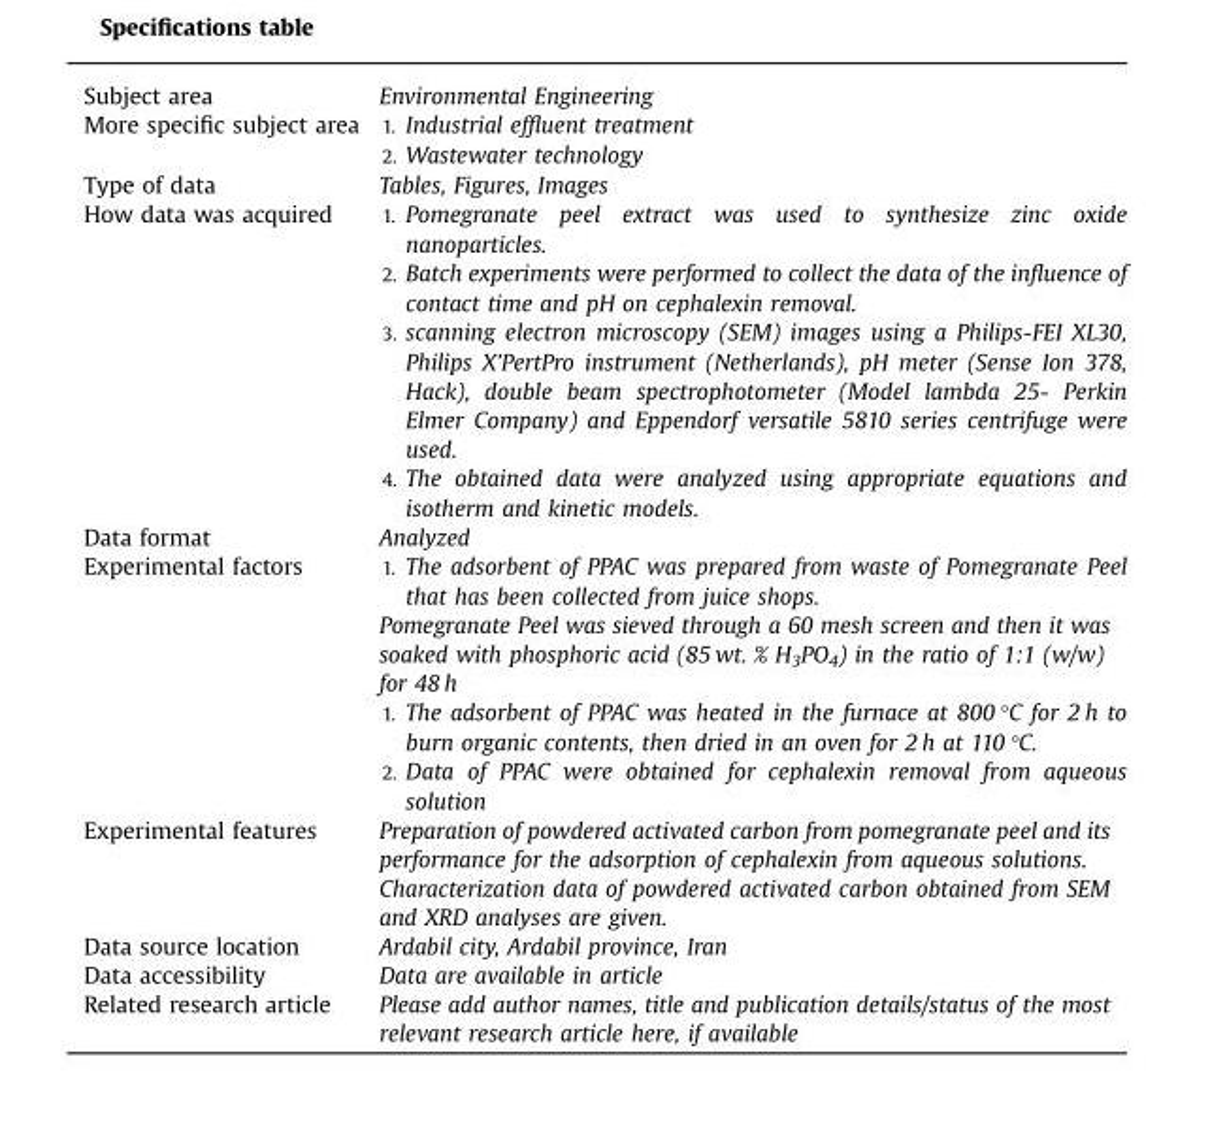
<table><tbody><tr><td>Subject area</td><td>Environmental Engineering</td></tr><tr><td>More specific subject area</td><td>1. Industrial effluent treatment 2. Wastewater technology</td></tr><tr><td>Type of data</td><td>Tables, Figures, Images</td></tr><tr><td>How data was acquired</td><td>1. Pomegranate peel extract was used to synthesize zinc oxide nanoparticles. 2. Batch experiments were performed to collect the data of the influence of contact time and pH on cephalexin removal. 3. scanning electron microscopy (SEM) images using a Philips-FEI XL30, Philips X’PertPro instrument (Netherlands), pH meter (Sense Ion 378, Hack), double beam spectrophotometer (Model lambda 25- Perkin Elmer Company) and Eppendorf versatile 5810 series centrifuge were used. 4. The obtained data were analyzed using appropriate equations and isotherm and kinetic models.</td></tr><tr><td>Data format</td><td>Analyzed</td></tr><tr><td rowspan="3">Experimental factors</td><td>1. The adsorbent of PPAC was prepared from waste of Pomegranate Peel that has been collected from juice shops.</td></tr><tr><td>Pomegranate Peel was sieved through a 60 mesh screen and then it was soaked with phosphoric acid (85 wt. % H<sub>3</sub>PO<sub>4</sub>) in the ratio of 1:1 (w/w) for 48 h</td></tr><tr><td>1. The adsorbent of PPAC was heated in the furnace at 800 °C for 2 h to burn organic contents, then dried in an oven for 2 h at 110 °C. 2. Data of PPAC were obtained for cephalexin removal from aqueous solution</td></tr><tr><td>Experimental features</td><td>Preparation of powdered activated carbon from pomegranate peel and its performance for the adsorption of cephalexin from aqueous solutions. Characterization data of powdered activated carbon obtained from SEM and XRD analyses are given.</td></tr><tr><td>Data source location</td><td>Ardabil city, Ardabil province, Iran</td></tr><tr><td>Data accessibility</td><td>Data are available in article</td></tr><tr><td>Related research article</td><td>Please add author names, title and publication details/status of the most relevant research article here, if available</td></tr></tbody></table>